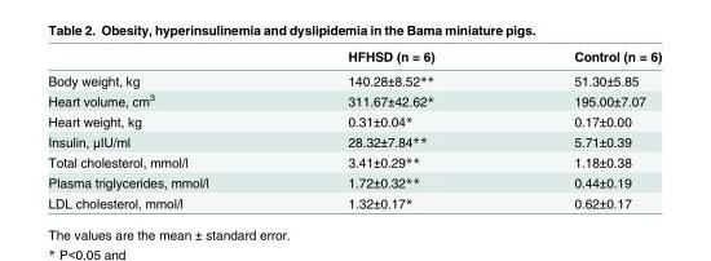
<table><thead><tr><td></td><td>HFHSD (n = 6)</td><td>Control (n = 6)</td></tr></thead><tbody><tr><td>Body weight, kg</td><td>140.28±8.52**</td><td>51.30±5.85</td></tr><tr><td>Heart volume, cm<sup>3</sup></td><td>311.67±42.62*</td><td>195.00±7.07</td></tr><tr><td>Heart weight, kg</td><td>0.31±0.04*</td><td>0.17±0.00</td></tr><tr><td>Insulin, μIU/ml</td><td>28.32±7.84**</td><td>5.71±0.39</td></tr><tr><td>Total cholesterol, mmol/l</td><td>3.41±0.29**</td><td>1.18±0.38</td></tr><tr><td>Plasma triglycerides, mmol/l</td><td>1.72±0.32**</td><td>0.44±0.19</td></tr><tr><td>LDL cholesterol, mmol/l</td><td>1.32±0.17*</td><td>0.62±0.17</td></tr></tbody></table>